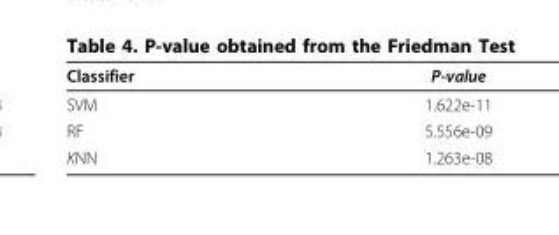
<table><thead><tr><td>Classifier</td><td>P-value</td></tr></thead><tbody><tr><td>SVM</td><td>1.622e-11</td></tr><tr><td>RF</td><td>5.556e-09</td></tr><tr><td>KNN</td><td>1.263e-08</td></tr></tbody></table>